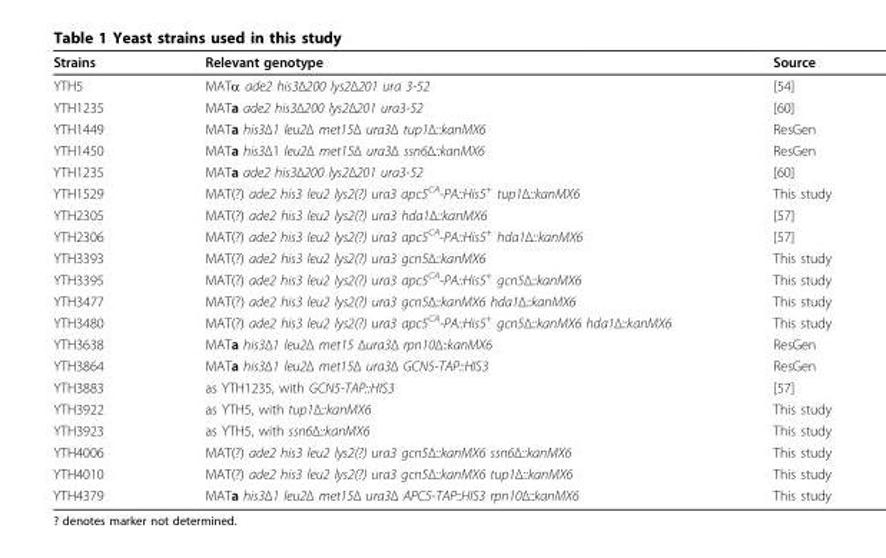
<table><thead><tr><td>Strains</td><td>Relevant genotype</td><td>Source</td></tr></thead><tbody><tr><td>YTH5</td><td>MATα ade2 his3Δ200 lys2Δ201 ura 3-52</td><td>[54]</td></tr><tr><td>YTH1235</td><td>MATa ade2 his3Δ200 lys2Δ201 ura3-52</td><td>[60]</td></tr><tr><td>YTH1449</td><td>MATa his3Δ1 leu2Δ met15Δ ura3Δ tup1Δ::kanMX6</td><td>ResGen</td></tr><tr><td>YTH1450</td><td>MATa his3Δ1 leu2Δ met15Δ ura3Δ ssn6Δ::kanMX6</td><td>ResGen</td></tr><tr><td>YTH1235</td><td>MATa ade2 his3Δ200 lys2Δ201 ura3-52</td><td>[60]</td></tr><tr><td>YTH1529</td><td>MAT(?) ade2 his3 leu2 lys2(?) ura3 apc5<sup>CA</sup>-PA::His5<sup>+</sup> tup1Δ::kanMX6</td><td>This study</td></tr><tr><td>YTH2305</td><td>MAT(?) ade2 his3 leu2 lys2(?) ura3 hda1Δ::kanMX6</td><td>[57]</td></tr><tr><td>YTH2306</td><td>MAT(?) ade2 his3 leu2 lys2(?) ura3 apc5<sup>CA</sup>-PA::His5<sup>+</sup> hda1Δ::kanMX6</td><td>[57]</td></tr><tr><td>YTH3393</td><td>MAT(?) ade2 his3 leu2 lys2(?) ura3 gcn5Δ::kanMX6</td><td>This study</td></tr><tr><td>YTH3395</td><td>MAT(?) ade2 his3 leu2 lys2(?) ura3 apc5<sup>CA</sup>-PA::His5<sup>+</sup> gcn5Δ::kanMX6</td><td>This study</td></tr><tr><td>YTH3477</td><td>MAT(?) ade2 his3 leu2 lys2(?) ura3 gcn5Δ::kanMX6 hda1Δ::kanMX6</td><td>This study</td></tr><tr><td>YTH3480</td><td>MAT(?) ade2 his3 leu2 lys2(?) ura3 apc5<sup>CA</sup>-PA::His5<sup>+</sup> gcn5Δ::kanMX6 hda1Δ::kanMX6</td><td>This study</td></tr><tr><td>YTH3638</td><td>MATa his3Δ1 leu2Δ met15 Δura3Δ rpn10Δ::kanMX6</td><td>ResGen</td></tr><tr><td>YTH3864</td><td>MATa his3Δ1 leu2Δ met15Δ ura3Δ GCN5-TAP::HIS3</td><td>ResGen</td></tr><tr><td>YTH3883</td><td>as YTH1235, with GCN5-TAP::HIS3</td><td>[57]</td></tr><tr><td>YTH3922</td><td>as YTH5, with tup1Δ::kanMX6</td><td>This study</td></tr><tr><td>YTH3923</td><td>as YTH5, with ssn6Δ::kanMX6</td><td>This study</td></tr><tr><td>YTH4006</td><td>MAT(?) ade2 his3 leu2 lys2(?) ura3 gcn5Δ::kanMX6 ssn6Δ::kanMX6</td><td>This study</td></tr><tr><td>YTH4010</td><td>MAT(?) ade2 his3 leu2 lys2(?) ura3 gcn5Δ::kanMX6 tup1Δ::kanMX6</td><td>This study</td></tr><tr><td>YTH4379</td><td>MATa his3Δ1 leu2Δ met15Δ ura3Δ APC5-TAP::HIS3 rpn10Δ::kanMX6</td><td>This study</td></tr></tbody></table>